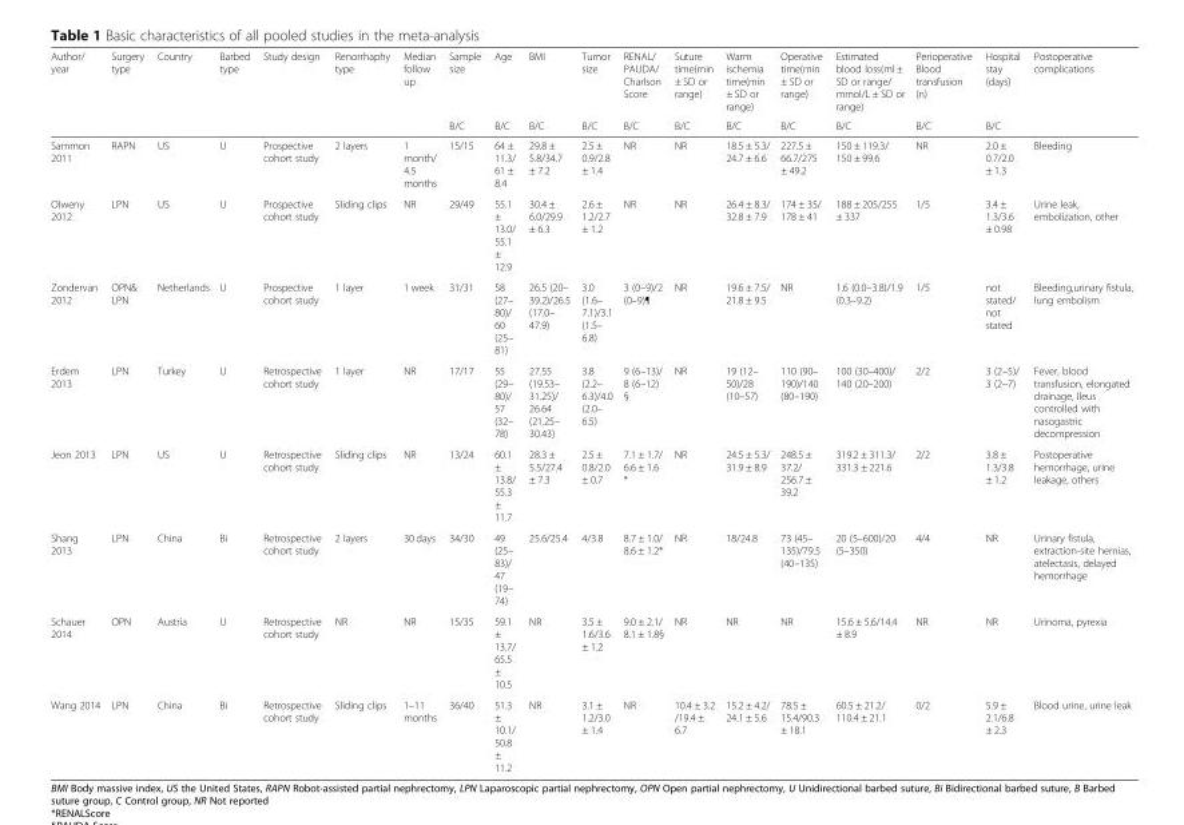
<table><thead><tr><td rowspan="2">Author/ year</td><td rowspan="2">Surgery type</td><td rowspan="2">Country</td><td rowspan="2">Barbed type</td><td rowspan="2">Study design</td><td rowspan="2">Renorrhaphy type</td><td rowspan="2">Median follow up</td><td rowspan="2">Sample size B/C</td><td rowspan="2">Age B/C</td><td rowspan="2">BMI B/C</td><td rowspan="2">Tumor size B/C</td><td rowspan="2">RENAL/ PAUDA/ Charlson Score B/C</td><td rowspan="2">Suture time(min ± SD or range) B/C</td><td rowspan="2">Warm ischemia time(min ± SD or range) B/C</td><td rowspan="2">Operative time(min ± SD or range) B/C</td><td rowspan="2">Estimated blood loss(ml ± SD or range/ mmol/L ± SD or range) B/C</td><td rowspan="2">Perioperative Blood transfusion (n) B/C</td><td rowspan="2">Hospital stay (days) B/C</td><td rowspan="2">Postoperative complications</td></tr><tr></tr></thead><tbody><tr><td>Sammon 2011</td><td>RAPN</td><td>US</td><td>U</td><td>Prospective cohort study</td><td>2 layers</td><td>1 month/ 4.5 months</td><td>15/15</td><td>64 ± 11.3/ 61 ± 8.4</td><td>29.8 ± 5.8/34.7 ± 7.2</td><td>2.5 ± 0.9/2.8 ± 1.4</td><td>NR</td><td>NR</td><td>18.5 ± 5.3/ 24.7 ± 6.6</td><td>227.5 ± 66.7/275 ± 49.2</td><td>150 ± 119.3/ 150 ± 99.6</td><td>NR</td><td>2.0 ± 0.7/2.0 ± 1.3</td><td>Bleeding</td></tr><tr><td>Olweny 2012</td><td>LPN</td><td>US</td><td>U</td><td>Prospective cohort study</td><td>Sliding clips</td><td>NR</td><td>29/49</td><td>55.1 ± 13.0/ 55.1 ± 12.9</td><td>30.4 ± 6.0/29.9 ± 6.3</td><td>2.6 ± 1.2/2.7 ± 1.2</td><td>NR</td><td>NR</td><td>26.4 ± 8.3/ 32.8 ± 7.9</td><td>174 ± 35/ 178 ± 41</td><td>188 ± 205/255 ± 337</td><td>1/5</td><td>3.4 ± 1.3/3.6 ± 0.98</td><td>Urine leak, embolization, other</td></tr><tr><td>Zondervan 2012</td><td>OPN&amp; LPN</td><td>Netherlands</td><td>U</td><td>Prospective cohort study</td><td>1 layer</td><td>1 week</td><td>31/31</td><td>58 (27– 80)/ 60 (25– 81)</td><td>26.5 (20– 39.2)/26.5 (17.0– 47.9)</td><td>3.0 (1.6– 7.1)/3.1 (1.5– 6.8)</td><td>3 (0–9)/2 (0–9)¶</td><td>NR</td><td>19.6 ± 7.5/ 21.8 ± 9.5</td><td>NR</td><td>1.6 (0.0–3.8)/1.9 (0.3–9.2)</td><td>1/5</td><td>not stated/ not stated</td><td>Bleeding,urinary fistula, lung embolism</td></tr><tr><td>Erdem 2013</td><td>LPN</td><td>Turkey</td><td>U</td><td>Retrospective cohort study</td><td>1 layer</td><td>NR</td><td>17/17</td><td>55 (29– 80)/ 57 (32– 78)</td><td>27.55 (19.53– 31.25)/ 26.64 (21.25– 30.43)</td><td>3.8 (2.2– 6.3)/4.0 (2.0– 6.5)</td><td>9 (6–13)/ 8 (6–12) §</td><td>NR</td><td>19 (12– 50)/28 (10–57)</td><td>110 (90– 190)/140 (80–190)</td><td>100 (30–400)/ 140 (20–200)</td><td>2/2</td><td>3 (2–5)/ 3 (2–7)</td><td>Fever, blood transfusion, elongated drainage, Ileus controlled with nasogastric decompression</td></tr><tr><td>Jeon 2013</td><td>LPN</td><td>US</td><td>U</td><td>Retrospective cohort study</td><td>Sliding clips</td><td>NR</td><td>13/24</td><td>60.1 ± 13.8/ 55.3 ± 11.7</td><td>28.3 ± 5.5/27.4 ± 7.3</td><td>2.5 ± 0.8/2.0 ± 0.7</td><td>7.1 ± 1.7/ 6.6 ± 1.6 *</td><td>NR</td><td>24.5 ± 5.3/ 31.9 ± 8.9</td><td>248.5 ± 37.2/ 256.7 ± 39.2</td><td>319.2 ± 311.3/ 331.3 ± 221.6</td><td>2/2</td><td>3.8 ± 1.3/3.8 ± 1.2</td><td>Postoperative hemorrhage, urine leakage, others</td></tr><tr><td>Shang 2013</td><td>LPN</td><td>China</td><td>Bi</td><td>Retrospective cohort study</td><td>2 layers</td><td>30 days</td><td>34/30</td><td>49 (25– 83)/ 47 (19– 74)</td><td>25.6/25.4</td><td>4/3.8</td><td>8.7 ± 1.0/ 8.6 ± 1.2*</td><td>NR</td><td>18/24.8</td><td>73 (45– 135)/79.5 (40–135)</td><td>20 (5–600)/20 (5–350)</td><td>4/4</td><td>NR</td><td>Urinary fistula, extraction-site hernias, atelectasis, delayed hemorrhage</td></tr><tr><td>Schauer 2014</td><td>OPN</td><td>Austria</td><td>U</td><td>Retrospective cohort study</td><td>NR</td><td>NR</td><td>15/35</td><td>59.1 ± 13.7/ 65.5 ± 10.5</td><td>NR</td><td>3.5 ± 1.6/3.6 ± 1.2</td><td>9.0 ± 2.1/ 8.1 ± 1.8§</td><td>NR</td><td>NR</td><td>NR</td><td>15.6 ± 5.6/14.4 ± 8.9</td><td>NR</td><td>NR</td><td>Urinoma, pyrexia</td></tr><tr><td>Wang 2014</td><td>LPN</td><td>China</td><td>Bi</td><td>Retrospective cohort study</td><td>Sliding clips</td><td>1–11 months</td><td>36/40</td><td>51.3 ± 10.1/ 50.8 ± 11.2</td><td>NR</td><td>3.1 ± 1.2/3.0 ± 1.4</td><td>NR</td><td>10.4 ± 3.2 /19.4 ± 6.7</td><td>15.2 ± 4.2/ 24.1 ± 5.6</td><td>78.5 ± 15.4/90.3 ± 18.1</td><td>60.5 ± 21.2/ 110.4 ± 21.1</td><td>0/2</td><td>5.9 ± 2.1/6.8 ± 2.3</td><td>Blood urine, urine leak</td></tr></tbody></table>